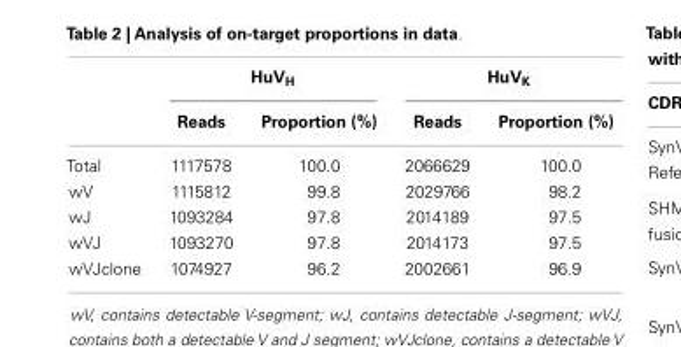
<table><thead><tr><td rowspan="2"></td><td colspan="2">HuV<sub>H</sub></td><td colspan="2">HuV<sub>K</sub></td></tr><tr><td>Reads</td><td>Proportion (%)</td><td>Reads</td><td>Proportion (%)</td></tr></thead><tbody><tr><td>Total</td><td>1117578</td><td>100.0</td><td>2066629</td><td>100.0</td></tr><tr><td>wV</td><td>1115812</td><td>99.8</td><td>2029766</td><td>98.2</td></tr><tr><td>wJ</td><td>1093284</td><td>97.8</td><td>2014189</td><td>97.5</td></tr><tr><td>wVJ</td><td>1093270</td><td>97.8</td><td>2014173</td><td>97.5</td></tr><tr><td>wVJclone</td><td>1074927</td><td>96.2</td><td>2002661</td><td>96.9</td></tr></tbody></table>